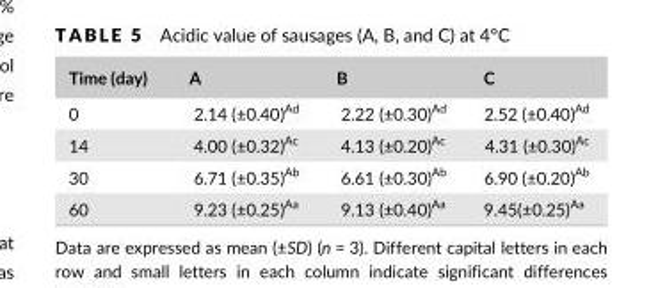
<table><thead><tr><td>Time (day)</td><td>A</td><td>B</td><td>C</td></tr></thead><tbody><tr><td>0</td><td>2.14 (±0.40)<sup>Ad</sup></td><td>2.22 (±0.30)<sup>Ad</sup></td><td>2.52 (±0.40)<sup>Ad</sup></td></tr><tr><td>14</td><td>4.00 (±0.32)<sup>Ac</sup></td><td>4.13 (±0.20)<sup>Ac</sup></td><td>4.31 (±0.30)<sup>Ac</sup></td></tr><tr><td>30</td><td>6.71 (±0.35)<sup>Ab</sup></td><td>6.61 (±0.30)<sup>Ab</sup></td><td>6.90 (±0.20)<sup>Ab</sup></td></tr><tr><td>60</td><td>9.23 (±0.25)<sup>Aa</sup></td><td>9.13 (±0.40)<sup>Aa</sup></td><td>9.45(±0.25)<sup>Aa</sup></td></tr></tbody></table>